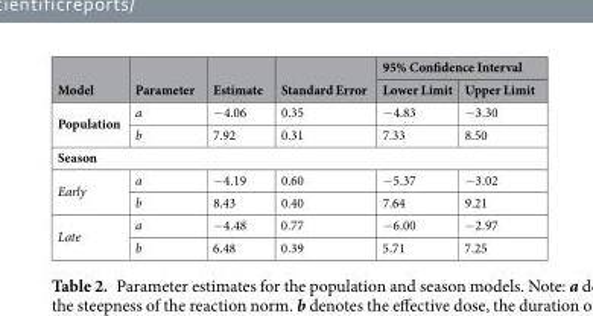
<table><thead><tr><td rowspan="2">Model</td><td rowspan="2">Parameter</td><td rowspan="2">Estimate</td><td rowspan="2">Standard Error</td><td colspan="2">95% Confidence Interval</td></tr><tr><td>Lower Limit</td><td>Upper Limit</td></tr></thead><tbody><tr><td rowspan="2">Population</td><td>a</td><td>−4.06</td><td>0.35</td><td>−4.83</td><td>−3.30</td></tr><tr><td>b</td><td>7.92</td><td>0.31</td><td>7.33</td><td>8.50</td></tr><tr><td colspan="6">Season</td></tr><tr><td rowspan="2">Early</td><td>a</td><td>−4.19</td><td>0.60</td><td>−5.37</td><td>−3.02</td></tr><tr><td>b</td><td>8.43</td><td>0.40</td><td>7.64</td><td>9.21</td></tr><tr><td rowspan="2">Late</td><td>a</td><td>−4.48</td><td>0.77</td><td>−6.00</td><td>−2.97</td></tr><tr><td>b</td><td>6.48</td><td>0.39</td><td>5.71</td><td>7.25</td></tr></tbody></table>